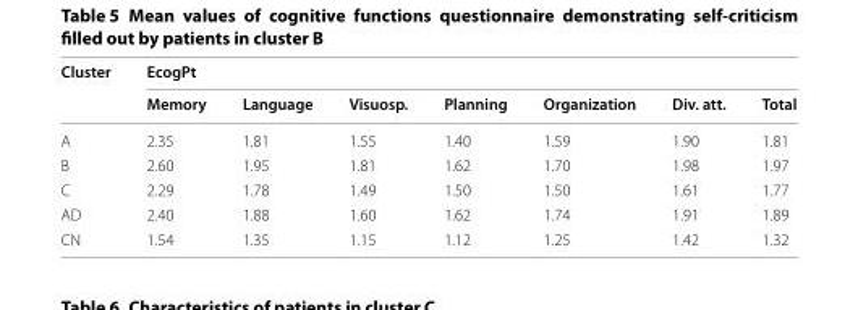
<table><thead><tr><td rowspan="2">Cluster</td><td colspan="7">EcogPt</td></tr><tr><td>Memory</td><td>Language</td><td>Visuosp.</td><td>Planning</td><td>Organization</td><td>Div. att.</td><td>Total</td></tr></thead><tbody><tr><td>A</td><td>2.35</td><td>1.81</td><td>1.55</td><td>1.40</td><td>1.59</td><td>1.90</td><td>1.81</td></tr><tr><td>B</td><td>2.60</td><td>1.95</td><td>1.81</td><td>1.62</td><td>1.70</td><td>1.98</td><td>1.97</td></tr><tr><td>C</td><td>2.29</td><td>1.78</td><td>1.49</td><td>1.50</td><td>1.50</td><td>1.61</td><td>1.77</td></tr><tr><td>AD</td><td>2.40</td><td>1.88</td><td>1.60</td><td>1.62</td><td>1.74</td><td>1.91</td><td>1.89</td></tr><tr><td>CN</td><td>1.54</td><td>1.35</td><td>1.15</td><td>1.12</td><td>1.25</td><td>1.42</td><td>1.32</td></tr></tbody></table>